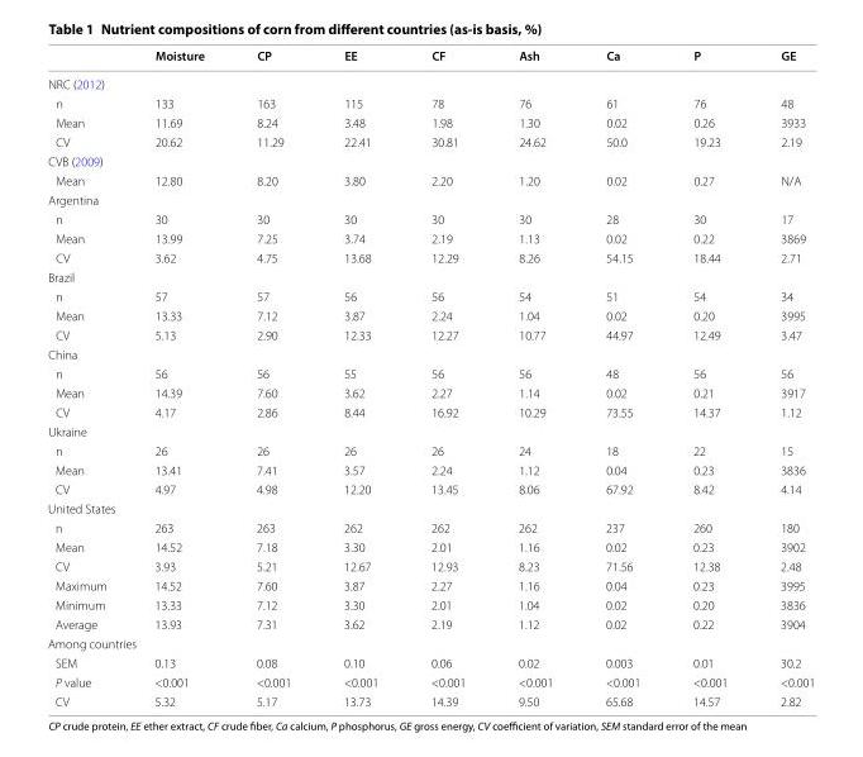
<table><thead><tr><td></td><td>Moisture</td><td>CP</td><td>EE</td><td>CF</td><td>Ash</td><td>Ca</td><td>P</td><td>GE</td></tr></thead><tbody><tr><td colspan="9">NRC (2012)</td></tr><tr><td>n</td><td>133</td><td>163</td><td>115</td><td>78</td><td>76</td><td>61</td><td>76</td><td>48</td></tr><tr><td>Mean</td><td>11.69</td><td>8.24</td><td>3.48</td><td>1.98</td><td>1.30</td><td>0.02</td><td>0.26</td><td>3933</td></tr><tr><td>CV</td><td>20.62</td><td>11.29</td><td>22.41</td><td>30.81</td><td>24.62</td><td>50.0</td><td>19.23</td><td>2.19</td></tr><tr><td colspan="9">CVB (2009)</td></tr><tr><td>Mean</td><td>12.80</td><td>8.20</td><td>3.80</td><td>2.20</td><td>1.20</td><td>0.02</td><td>0.27</td><td>N/A</td></tr><tr><td colspan="9">Argentina</td></tr><tr><td>n</td><td>30</td><td>30</td><td>30</td><td>30</td><td>30</td><td>28</td><td>30</td><td>17</td></tr><tr><td>Mean</td><td>13.99</td><td>7.25</td><td>3.74</td><td>2.19</td><td>1.13</td><td>0.02</td><td>0.22</td><td>3869</td></tr><tr><td>CV</td><td>3.62</td><td>4.75</td><td>13.68</td><td>12.29</td><td>8.26</td><td>54.15</td><td>18.44</td><td>2.71</td></tr><tr><td colspan="9">Brazil</td></tr><tr><td>n</td><td>57</td><td>57</td><td>56</td><td>56</td><td>54</td><td>51</td><td>54</td><td>34</td></tr><tr><td>Mean</td><td>13.33</td><td>7.12</td><td>3.87</td><td>2.24</td><td>1.04</td><td>0.02</td><td>0.20</td><td>3995</td></tr><tr><td>CV</td><td>5.13</td><td>2.90</td><td>12.33</td><td>12.27</td><td>10.77</td><td>44.97</td><td>12.49</td><td>3.47</td></tr><tr><td colspan="9">China</td></tr><tr><td>n</td><td>56</td><td>56</td><td>55</td><td>56</td><td>56</td><td>48</td><td>56</td><td>56</td></tr><tr><td>Mean</td><td>14.39</td><td>7.60</td><td>3.62</td><td>2.27</td><td>1.14</td><td>0.02</td><td>0.21</td><td>3917</td></tr><tr><td>CV</td><td>4.17</td><td>2.86</td><td>8.44</td><td>16.92</td><td>10.29</td><td>73.55</td><td>14.37</td><td>1.12</td></tr><tr><td colspan="9">Ukraine</td></tr><tr><td>n</td><td>26</td><td>26</td><td>26</td><td>26</td><td>24</td><td>18</td><td>22</td><td>15</td></tr><tr><td>Mean</td><td>13.41</td><td>7.41</td><td>3.57</td><td>2.24</td><td>1.12</td><td>0.04</td><td>0.23</td><td>3836</td></tr><tr><td>CV</td><td>4.97</td><td>4.98</td><td>12.20</td><td>13.45</td><td>8.06</td><td>67.92</td><td>8.42</td><td>4.14</td></tr><tr><td colspan="9">United States</td></tr><tr><td>n</td><td>263</td><td>263</td><td>262</td><td>262</td><td>262</td><td>237</td><td>260</td><td>180</td></tr><tr><td>Mean</td><td>14.52</td><td>7.18</td><td>3.30</td><td>2.01</td><td>1.16</td><td>0.02</td><td>0.23</td><td>3902</td></tr><tr><td>CV</td><td>3.93</td><td>5.21</td><td>12.67</td><td>12.93</td><td>8.23</td><td>71.56</td><td>12.38</td><td>2.48</td></tr><tr><td>Maximum</td><td>14.52</td><td>7.60</td><td>3.87</td><td>2.27</td><td>1.16</td><td>0.04</td><td>0.23</td><td>3995</td></tr><tr><td>Minimum</td><td>13.33</td><td>7.12</td><td>3.30</td><td>2.01</td><td>1.04</td><td>0.02</td><td>0.20</td><td>3836</td></tr><tr><td>Average</td><td>13.93</td><td>7.31</td><td>3.62</td><td>2.19</td><td>1.12</td><td>0.02</td><td>0.22</td><td>3904</td></tr><tr><td colspan="9">Among countries</td></tr><tr><td>SEM</td><td>0.13</td><td>0.08</td><td>0.10</td><td>0.06</td><td>0.02</td><td>0.003</td><td>0.01</td><td>30.2</td></tr><tr><td>P value</td><td>&lt;0.001</td><td>&lt;0.001</td><td>&lt;0.001</td><td>&lt;0.001</td><td>&lt;0.001</td><td>&lt;0.001</td><td>&lt;0.001</td><td>&lt;0.001</td></tr><tr><td>CV</td><td>5.32</td><td>5.17</td><td>13.73</td><td>14.39</td><td>9.50</td><td>65.68</td><td>14.57</td><td>2.82</td></tr></tbody></table>